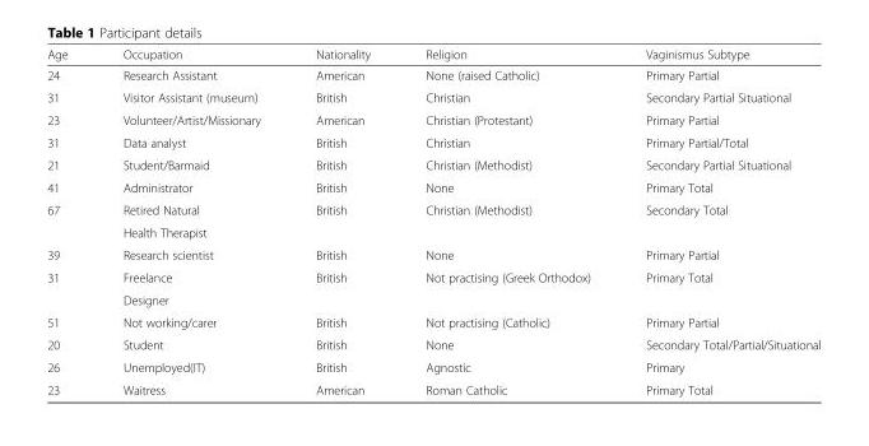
<table><thead><tr><td>Age</td><td>Occupation</td><td>Nationality</td><td>Religion</td><td>Vaginismus Subtype</td></tr></thead><tbody><tr><td>24</td><td>Research Assistant</td><td>American</td><td>None (raised Catholic)</td><td>Primary Partial</td></tr><tr><td>31</td><td>Visitor Assistant (museum)</td><td>British</td><td>Christian</td><td>Secondary Partial Situational</td></tr><tr><td>23</td><td>Volunteer/Artist/Missionary</td><td>American</td><td>Christian (Protestant)</td><td>Primary Partial</td></tr><tr><td>31</td><td>Data analyst</td><td>British</td><td>Christian</td><td>Primary Partial/Total</td></tr><tr><td>21</td><td>Student/Barmaid</td><td>British</td><td>Christian (Methodist)</td><td>Secondary Partial Situational</td></tr><tr><td>41</td><td>Administrator</td><td>British</td><td>None</td><td>Primary Total</td></tr><tr><td rowspan="2">67</td><td>Retired Natural</td><td rowspan="2">British</td><td rowspan="2">Christian (Methodist)</td><td rowspan="2">Secondary Total</td></tr><tr><td>Health Therapist</td></tr><tr><td>39</td><td>Research scientist</td><td>British</td><td>None</td><td>Primary Partial</td></tr><tr><td rowspan="2">31</td><td>Freelance</td><td rowspan="2">British</td><td rowspan="2">Not practising (Greek Orthodox)</td><td rowspan="2">Primary Total</td></tr><tr><td>Designer</td></tr><tr><td>51</td><td>Not working/carer</td><td>British</td><td>Not practising (Catholic)</td><td>Primary Partial</td></tr><tr><td>20</td><td>Student</td><td>British</td><td>None</td><td>Secondary Total/Partial/Situational</td></tr><tr><td>26</td><td>Unemployed(IT)</td><td>British</td><td>Agnostic</td><td>Primary</td></tr><tr><td>23</td><td>Waitress</td><td>American</td><td>Roman Catholic</td><td>Primary Total</td></tr></tbody></table>